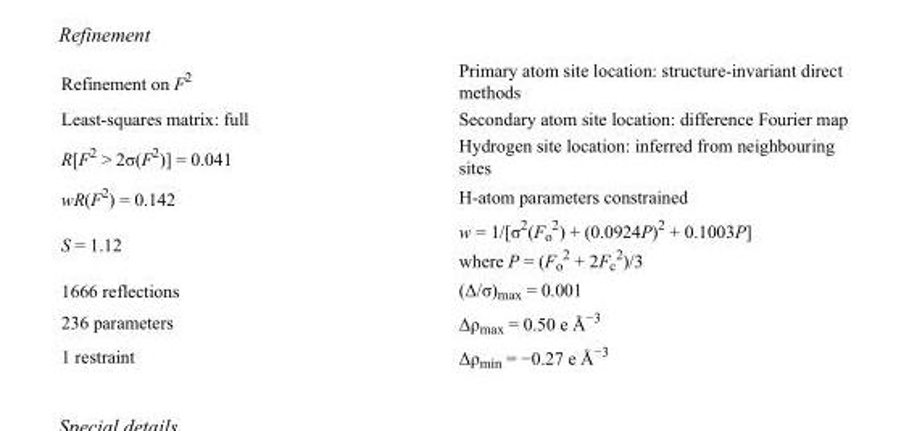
<table><tbody><tr><td>Refinement on F<sup>2</sup></td><td>Primary atom site location: structure-invariant direct methods</td></tr><tr><td>Least-squares matrix: full</td><td>Secondary atom site location: difference Fourier map</td></tr><tr><td>R[F<sup>2</sup> &gt; 2σ(F<sup>2</sup>)] = 0.041</td><td>Hydrogen site location: inferred from neighbouring sites</td></tr><tr><td>wR(F<sup>2</sup>) = 0.142</td><td>H-atom parameters constrained</td></tr><tr><td>S = 1.12</td><td>w = 1/[σ<sup>2</sup>(F<sub>o</sub> <sup>2</sup>) + (0.0924P)<sup>2</sup> + 0.1003P] where P = (F<sub>o</sub> <sup>2</sup> + 2F<sub>c</sub> <sup>2</sup>)/3</td></tr><tr><td>1666 reflections</td><td>(Δ/σ)<sub>max</sub> = 0.001</td></tr><tr><td>236 parameters</td><td>Δρ<sub>max</sub> = 0.50 e Å<sup>−3</sup></td></tr><tr><td>1 restraint</td><td>Δρ<sub>min</sub> = −0.27 e Å<sup>−3</sup></td></tr></tbody></table>